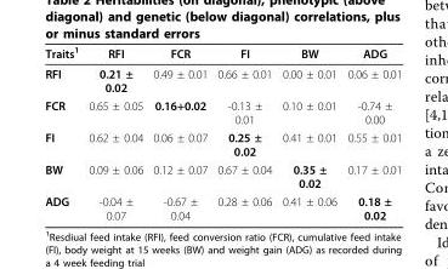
<table><thead><tr><td>Traits<sup>1</sup></td><td>RFI</td><td>FCR</td><td>FI</td><td>BW</td><td>ADG</td></tr></thead><tbody><tr><td>RFI</td><td>0.21 ± 0.02</td><td>0.49 ± 0.01</td><td>0.66 ± 0.01</td><td>0.00 ± 0.01</td><td>0.06 ± 0.01</td></tr><tr><td>FCR</td><td>0.65 ± 0.05</td><td>0.16+0.02</td><td>-0.13 ± 0.01</td><td>0.10 ± 0.01</td><td>-0.74 ± 0.00</td></tr><tr><td>FI</td><td>0.62 ± 0.04</td><td>0.06 ± 0.07</td><td>0.25 ± 0.02</td><td>0.41 ± 0.01</td><td>0.55 ± 0.01</td></tr><tr><td>BW</td><td>0.09 ± 0.06</td><td>0.12 ± 0.07</td><td>0.67 ± 0.04</td><td>0.35 ± 0.02</td><td>0.17 ± 0.01</td></tr><tr><td>ADG</td><td>-0.04 ± 0.07</td><td>-0.67 ± 0.04</td><td>0.28 ± 0.06</td><td>0.41 ± 0.06</td><td>0.18 ± 0.02</td></tr></tbody></table>